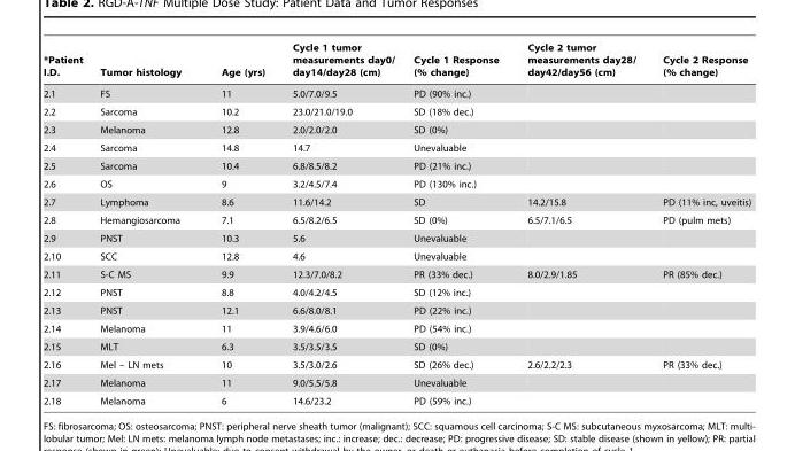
<table><thead><tr><td>*Patient I.D.</td><td>Tumor histology</td><td>Age (yrs)</td><td>Cycle 1 tumor measurements day0/ day14/day28 (cm)</td><td>Cycle 1 Response (% change)</td><td>Cycle 2 tumor measurements day28/ day42/day56 (cm)</td><td>Cycle 2 Response (% change)</td></tr></thead><tbody><tr><td>2.1</td><td>FS</td><td>11</td><td>5.0/7.0/9.5</td><td>PD (90% inc.)</td><td></td><td></td></tr><tr><td>2.2</td><td>Sarcoma</td><td>10.2</td><td>23.0/21.0/19.0</td><td>SD (18% dec.)</td><td></td><td></td></tr><tr><td>2.3</td><td>Melanoma</td><td>12.8</td><td>2.0/2.0/2.0</td><td>SD (0%)</td><td></td><td></td></tr><tr><td>2.4</td><td>Sarcoma</td><td>14.8</td><td>14.7</td><td>Unevaluable</td><td></td><td></td></tr><tr><td>2.5</td><td>Sarcoma</td><td>10.4</td><td>6.8/8.5/8.2</td><td>PD (21% inc.)</td><td></td><td></td></tr><tr><td>2.6</td><td>OS</td><td>9</td><td>3.2/4.5/7.4</td><td>PD (130% inc.)</td><td></td><td></td></tr><tr><td>2.7</td><td>Lymphoma</td><td>8.6</td><td>11.6/14.2</td><td>SD</td><td>14.2/15.8</td><td>PD (11% inc, uveitis)</td></tr><tr><td>2.8</td><td>Hemangiosarcoma</td><td>7.1</td><td>6.5/8.2/6.5</td><td>SD (0%)</td><td>6.5/7.1/6.5</td><td>PD (pulm mets)</td></tr><tr><td>2.9</td><td>PNST</td><td>10.3</td><td>5.6</td><td>Unevaluable</td><td></td><td></td></tr><tr><td>2.10</td><td>SCC</td><td>12.8</td><td>4.6</td><td>Unevaluable</td><td></td><td></td></tr><tr><td>2.11</td><td>S-C MS</td><td>9.9</td><td>12.3/7.0/8.2</td><td>PR (33% dec.)</td><td>8.0/2.9/1.85</td><td>PR (85% dec.)</td></tr><tr><td>2.12</td><td>PNST</td><td>8.8</td><td>4.0/4.2/4.5</td><td>SD (12% inc.)</td><td></td><td></td></tr><tr><td>2.13</td><td>PNST</td><td>12.1</td><td>6.6/8.0/8.1</td><td>PD (22% inc.)</td><td></td><td></td></tr><tr><td>2.14</td><td>Melanoma</td><td>11</td><td>3.9/4.6/6.0</td><td>PD (54% inc.)</td><td></td><td></td></tr><tr><td>2.15</td><td>MLT</td><td>6.3</td><td>3.5/3.5/3.5</td><td>SD (0%)</td><td></td><td></td></tr><tr><td>2.16</td><td>Mel – LN mets</td><td>10</td><td>3.5/3.0/2.6</td><td>SD (26% dec.)</td><td>2.6/2.2/2.3</td><td>PR (33% dec.)</td></tr><tr><td>2.17</td><td>Melanoma</td><td>11</td><td>9.0/5.5/5.8</td><td>Unevaluable</td><td></td><td></td></tr><tr><td>2.18</td><td>Melanoma</td><td>6</td><td>14.6/23.2</td><td>PD (59% inc.)</td><td></td><td></td></tr></tbody></table>